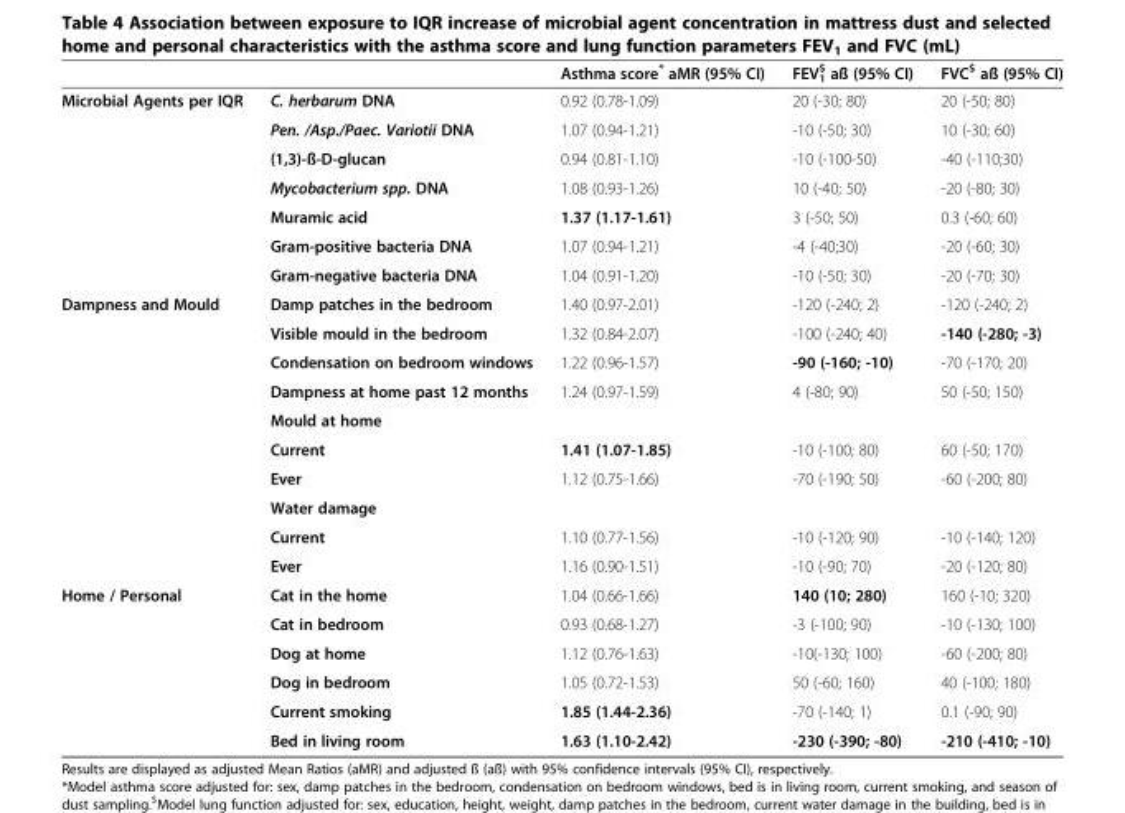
<table><thead><tr><td></td><td></td><td>Asthma score* aMR (95% CI)</td><td>FEV<sub>1</sub> <sup>$</sup> aß (95% CI)</td><td>FVC<sup>$</sup> aß (95% CI)</td></tr></thead><tbody><tr><td rowspan="7">Microbial Agents per IQR</td><td>C. herbarum DNA</td><td>0.92 (0.78-1.09)</td><td>20 (-30; 80)</td><td>20 (-50; 80)</td></tr><tr><td>Pen. /Asp./Paec. Variotii DNA</td><td>1.07 (0.94-1.21)</td><td>-10 (-50; 30)</td><td>10 (-30; 60)</td></tr><tr><td>(1,3)-ß-D-glucan</td><td>0.94 (0.81-1.10)</td><td>-10 (-100-50)</td><td>-40 (-110;30)</td></tr><tr><td>Mycobacterium spp. DNA</td><td>1.08 (0.93-1.26)</td><td>10 (-40; 50)</td><td>-20 (-80; 30)</td></tr><tr><td>Muramic acid</td><td>1.37 (1.17-1.61)</td><td>3 (-50; 50)</td><td>0.3 (-60; 60)</td></tr><tr><td>Gram-positive bacteria DNA</td><td>1.07 (0.94-1.21)</td><td>-4 (-40;30)</td><td>-20 (-60; 30)</td></tr><tr><td>Gram-negative bacteria DNA</td><td>1.04 (0.91-1.20)</td><td>-10 (-50; 30)</td><td>-20 (-70; 30)</td></tr><tr><td rowspan="10">Dampness and Mould</td><td>Damp patches in the bedroom</td><td>1.40 (0.97-2.01)</td><td>-120 (-240; 2)</td><td>-120 (-240; 2)</td></tr><tr><td>Visible mould in the bedroom</td><td>1.32 (0.84-2.07)</td><td>-100 (-240; 40)</td><td>-140 (-280; -3)</td></tr><tr><td>Condensation on bedroom windows</td><td>1.22 (0.96-1.57)</td><td>-90 (-160; -10)</td><td>-70 (-170; 20)</td></tr><tr><td>Dampness at home past 12 months</td><td>1.24 (0.97-1.59)</td><td>4 (-80; 90)</td><td>50 (-50; 150)</td></tr><tr><td>Mould at home</td><td></td><td></td><td></td></tr><tr><td>Current</td><td>1.41 (1.07-1.85)</td><td>-10 (-100; 80)</td><td>60 (-50; 170)</td></tr><tr><td>Ever</td><td>1.12 (0.75-1.66)</td><td>-70 (-190; 50)</td><td>-60 (-200; 80)</td></tr><tr><td>Water damage</td><td></td><td></td><td></td></tr><tr><td>Current</td><td>1.10 (0.77-1.56)</td><td>-10 (-120; 90)</td><td>-10 (-140; 120)</td></tr><tr><td>Ever</td><td>1.16 (0.90-1.51)</td><td>-10 (-90; 70)</td><td>-20 (-120; 80)</td></tr><tr><td rowspan="6">Home / Personal</td><td>Cat in the home</td><td>1.04 (0.66-1.66)</td><td>140 (10; 280)</td><td>160 (-10; 320)</td></tr><tr><td>Cat in bedroom</td><td>0.93 (0.68-1.27)</td><td>-3 (-100; 90)</td><td>-10 (-130; 100)</td></tr><tr><td>Dog at home</td><td>1.12 (0.76-1.63)</td><td>-10(-130; 100)</td><td>-60 (-200; 80)</td></tr><tr><td>Dog in bedroom</td><td>1.05 (0.72-1.53)</td><td>50 (-60; 160)</td><td>40 (-100; 180)</td></tr><tr><td>Current smoking</td><td>1.85 (1.44-2.36)</td><td>-70 (-140; 1)</td><td>0.1 (-90; 90)</td></tr><tr><td>Bed in living room</td><td>1.63 (1.10-2.42)</td><td>-230 (-390; -80)</td><td>-210 (-410; -10)</td></tr></tbody></table>